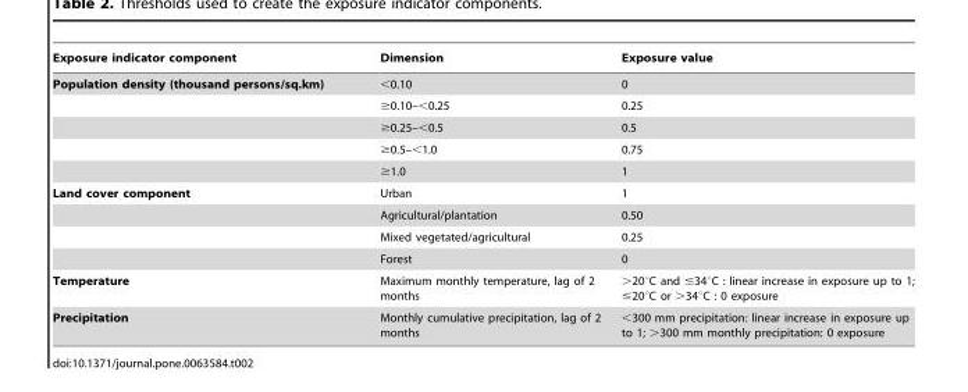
<table><thead><tr><td>Exposure indicator component</td><td>Dimension</td><td>Exposure value</td></tr></thead><tbody><tr><td rowspan="5">Population density (thousand persons/sq.km)</td><td>&lt;0.10</td><td>0</td></tr><tr><td>≥0.10–&lt;0.25</td><td>0.25</td></tr><tr><td>≥0.25–&lt;0.5</td><td>0.5</td></tr><tr><td>≥0.5–&lt;1.0</td><td>0.75</td></tr><tr><td>≥1.0</td><td>1</td></tr><tr><td rowspan="4">Land cover component</td><td>Urban</td><td>1</td></tr><tr><td>Agricultural/plantation</td><td>0.50</td></tr><tr><td>Mixed vegetated/agricultural</td><td>0.25</td></tr><tr><td>Forest</td><td>0</td></tr><tr><td>Temperature</td><td>Maximum monthly temperature, lag of 2 months</td><td>&gt;20°C and ≤34°C : linear increase in exposure up to 1; ≤20°C or &gt;34°C : 0 exposure</td></tr><tr><td>Precipitation</td><td>Monthly cumulative precipitation, lag of 2 months</td><td>&lt;300 mm precipitation: linear increase in exposure up to 1; &gt;300 mm monthly precipitation: 0 exposure</td></tr></tbody></table>